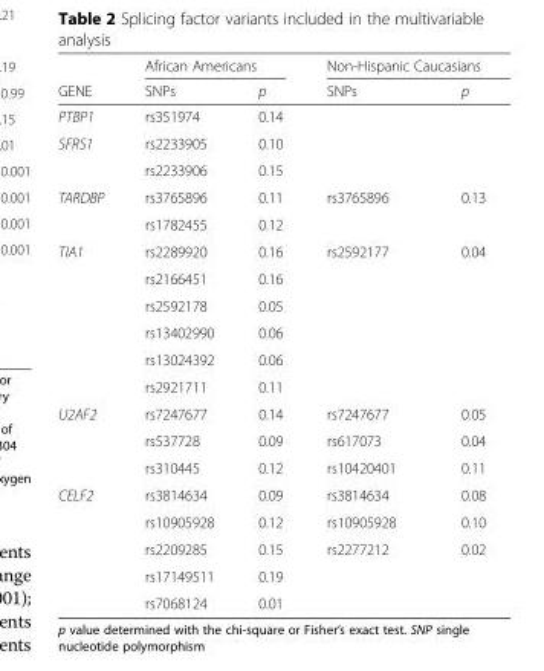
<table><thead><tr><td rowspan="2">GENE</td><td colspan="2">African Americans</td><td colspan="2">Non-Hispanic Caucasians</td></tr><tr><td>SNPs</td><td>p</td><td>SNPs</td><td>p</td></tr></thead><tbody><tr><td>PTBP1</td><td>rs351974</td><td>0.14</td><td></td><td></td></tr><tr><td rowspan="2">SFRS1</td><td>rs2233905</td><td>0.10</td><td></td><td></td></tr><tr><td>rs2233906</td><td>0.15</td><td></td><td></td></tr><tr><td rowspan="2">TARDBP</td><td>rs3765896</td><td>0.11</td><td>rs3765896</td><td>0.13</td></tr><tr><td>rs1782455</td><td>0.12</td><td></td><td></td></tr><tr><td rowspan="6">TIA1</td><td>rs2289920</td><td>0.16</td><td>rs2592177</td><td>0.04</td></tr><tr><td>rs2166451</td><td>0.16</td><td></td><td></td></tr><tr><td>rs2592178</td><td>0.05</td><td></td><td></td></tr><tr><td>rs13402990</td><td>0.06</td><td></td><td></td></tr><tr><td>rs13024392</td><td>0.06</td><td></td><td></td></tr><tr><td>rs2921711</td><td>0.11</td><td></td><td></td></tr><tr><td rowspan="3">U2AF2</td><td>rs7247677</td><td>0.14</td><td>rs7247677</td><td>0.05</td></tr><tr><td>rs537728</td><td>0.09</td><td>rs617073</td><td>0.04</td></tr><tr><td>rs310445</td><td>0.12</td><td>rs10420401</td><td>0.11</td></tr><tr><td rowspan="5">CELF2</td><td>rs3814634</td><td>0.09</td><td>rs3814634</td><td>0.08</td></tr><tr><td>rs10905928</td><td>0.12</td><td>rs10905928</td><td>0.10</td></tr><tr><td>rs2209285</td><td>0.15</td><td>rs2277212</td><td>0.02</td></tr><tr><td>rs17149511</td><td>0.19</td><td></td><td></td></tr><tr><td>rs7068124</td><td>0.01</td><td></td><td></td></tr></tbody></table>